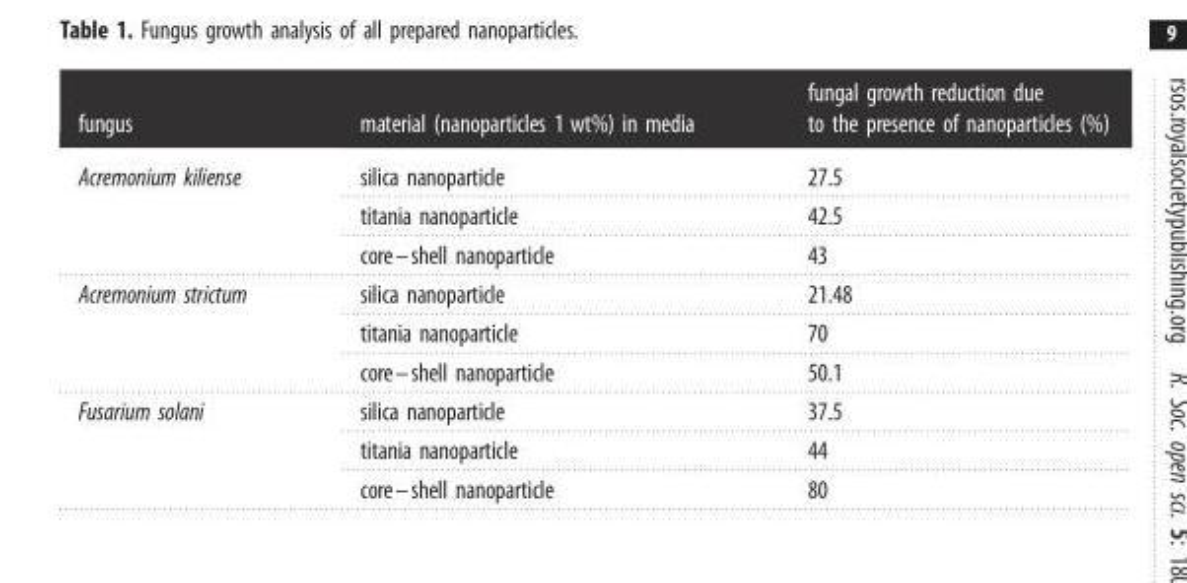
<table><thead><tr><td>fungus</td><td>material (nanoparticles 1 wt%) in media</td><td>fungal growth reduction due to the presence of nanoparticles (%)</td></tr></thead><tbody><tr><td rowspan="3">Acremonium kiliense</td><td>silica nanoparticle</td><td>27.5</td></tr><tr><td>titania nanoparticle</td><td>42.5</td></tr><tr><td>core–shell nanoparticle</td><td>43</td></tr><tr><td rowspan="3">Acremonium strictum</td><td>silica nanoparticle</td><td>21.48</td></tr><tr><td>titania nanoparticle</td><td>70</td></tr><tr><td>core–shell nanoparticle</td><td>50.1</td></tr><tr><td rowspan="3">Fusarium solani</td><td>silica nanoparticle</td><td>37.5</td></tr><tr><td>titania nanoparticle</td><td>44</td></tr><tr><td>core–shell nanoparticle</td><td>80</td></tr></tbody></table>